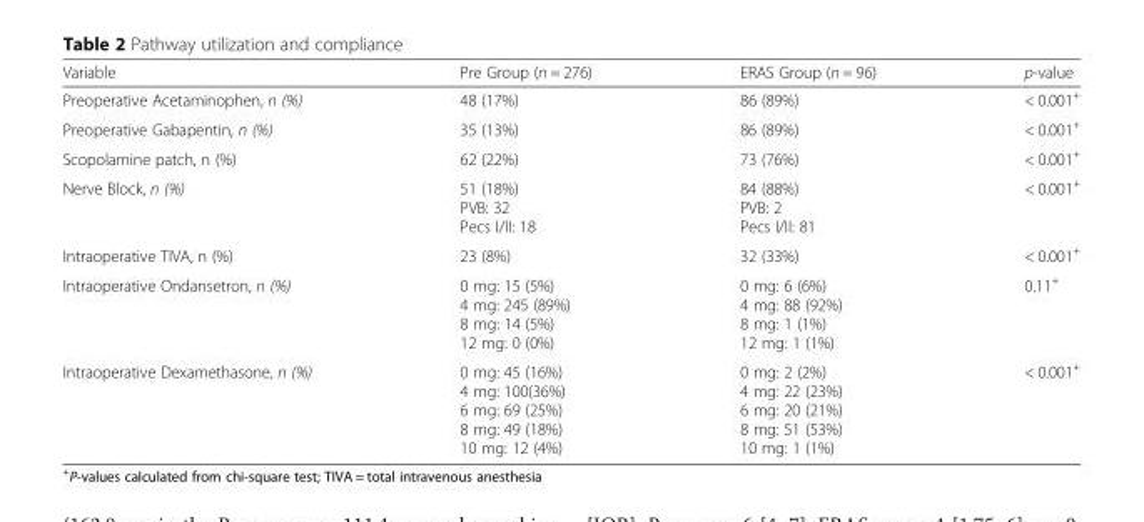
<table><thead><tr><td>Variable</td><td>Pre Group (n = 276)</td><td>ERAS Group (n = 96)</td><td>p-value</td></tr></thead><tbody><tr><td>Preoperative Acetaminophen, n (%)</td><td>48 (17%)</td><td>86 (89%)</td><td>&lt; 0.001<sup>+</sup></td></tr><tr><td>Preoperative Gabapentin, n (%)</td><td>35 (13%)</td><td>86 (89%)</td><td>&lt; 0.001<sup>+</sup></td></tr><tr><td>Scopolamine patch, n (%)</td><td>62 (22%)</td><td>73 (76%)</td><td>&lt; 0.001<sup>+</sup></td></tr><tr><td>Nerve Block, n (%)</td><td>51 (18%) PVB: 32 Pecs I/II: 18</td><td>84 (88%) PVB: 2 Pecs I/II: 81</td><td>&lt; 0.001<sup>+</sup></td></tr><tr><td>Intraoperative TIVA, n (%)</td><td>23 (8%)</td><td>32 (33%)</td><td>&lt; 0.001<sup>+</sup></td></tr><tr><td>Intraoperative Ondansetron, n (%)</td><td>0 mg: 15 (5%) 4 mg: 245 (89%) 8 mg: 14 (5%) 12 mg: 0 (0%)</td><td>0 mg: 6 (6%) 4 mg: 88 (92%) 8 mg: 1 (1%) 12 mg: 1 (1%)</td><td>0.11<sup>+</sup></td></tr><tr><td>Intraoperative Dexamethasone, n (%)</td><td>0 mg: 45 (16%) 4 mg: 100(36%) 6 mg: 69 (25%) 8 mg: 49 (18%) 10 mg: 12 (4%)</td><td>0 mg: 2 (2%) 4 mg: 22 (23%) 6 mg: 20 (21%) 8 mg: 51 (53%) 10 mg: 1 (1%)</td><td>&lt; 0.001<sup>+</sup></td></tr></tbody></table>